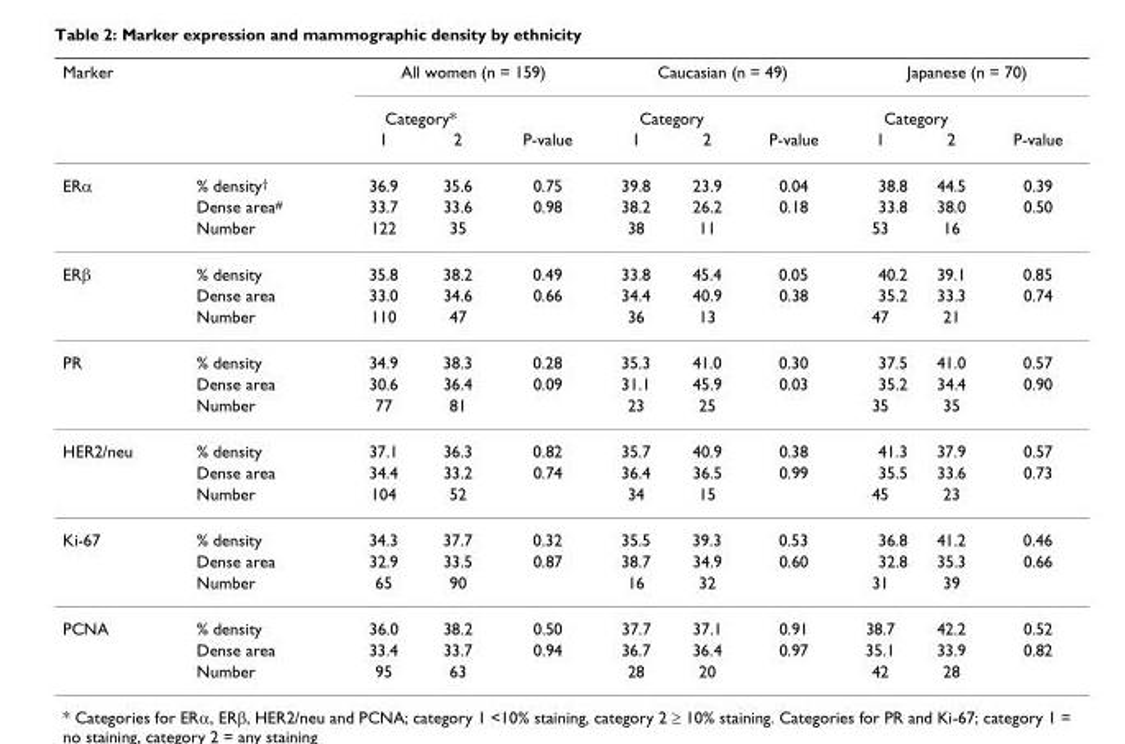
<table><thead><tr><td rowspan="3">Marker</td><td rowspan="3"></td><td colspan="3">All women (n = 159)</td><td colspan="3">Caucasian (n = 49)</td><td colspan="3">Japanese (n = 70)</td></tr><tr><td colspan="2">Category*</td><td rowspan="2">P-value</td><td colspan="2">Category</td><td rowspan="2">P-value</td><td colspan="2">Category</td><td rowspan="2">P-value</td></tr><tr><td>1</td><td>2</td><td>1</td><td>2</td><td>1</td><td>2</td></tr></thead><tbody><tr><td rowspan="3">ERα</td><td>% density<sup>†</sup></td><td>36.9</td><td>35.6</td><td>0.75</td><td>39.8</td><td>23.9</td><td>0.04</td><td>38.8</td><td>44.5</td><td>0.39</td></tr><tr><td>Dense area<sup>#</sup></td><td>33.7</td><td>33.6</td><td>0.98</td><td>38.2</td><td>26.2</td><td>0.18</td><td>33.8</td><td>38.0</td><td>0.50</td></tr><tr><td>Number</td><td>122</td><td>35</td><td></td><td>38</td><td>11</td><td></td><td>53</td><td>16</td><td></td></tr><tr><td rowspan="3">ERβ</td><td>% density</td><td>35.8</td><td>38.2</td><td>0.49</td><td>33.8</td><td>45.4</td><td>0.05</td><td>40.2</td><td>39.1</td><td>0.85</td></tr><tr><td>Dense area</td><td>33.0</td><td>34.6</td><td>0.66</td><td>34.4</td><td>40.9</td><td>0.38</td><td>35.2</td><td>33.3</td><td>0.74</td></tr><tr><td>Number</td><td>110</td><td>47</td><td></td><td>36</td><td>13</td><td></td><td>47</td><td>21</td><td></td></tr><tr><td rowspan="3">PR</td><td>% density</td><td>34.9</td><td>38.3</td><td>0.28</td><td>35.3</td><td>41.0</td><td>0.30</td><td>37.5</td><td>41.0</td><td>0.57</td></tr><tr><td>Dense area</td><td>30.6</td><td>36.4</td><td>0.09</td><td>31.1</td><td>45.9</td><td>0.03</td><td>35.2</td><td>34.4</td><td>0.90</td></tr><tr><td>Number</td><td>77</td><td>81</td><td></td><td>23</td><td>25</td><td></td><td>35</td><td>35</td><td></td></tr><tr><td rowspan="3">HER2/neu</td><td>% density</td><td>37.1</td><td>36.3</td><td>0.82</td><td>35.7</td><td>40.9</td><td>0.38</td><td>41.3</td><td>37.9</td><td>0.57</td></tr><tr><td>Dense area</td><td>34.4</td><td>33.2</td><td>0.74</td><td>36.4</td><td>36.5</td><td>0.99</td><td>35.5</td><td>33.6</td><td>0.73</td></tr><tr><td>Number</td><td>104</td><td>52</td><td></td><td>34</td><td>15</td><td></td><td>45</td><td>23</td><td></td></tr><tr><td rowspan="3">Ki-67</td><td>% density</td><td>34.3</td><td>37.7</td><td>0.32</td><td>35.5</td><td>39.3</td><td>0.53</td><td>36.8</td><td>41.2</td><td>0.46</td></tr><tr><td>Dense area</td><td>32.9</td><td>33.5</td><td>0.87</td><td>38.7</td><td>34.9</td><td>0.60</td><td>32.8</td><td>35.3</td><td>0.66</td></tr><tr><td>Number</td><td>65</td><td>90</td><td></td><td>16</td><td>32</td><td></td><td>31</td><td>39</td><td></td></tr><tr><td rowspan="3">PCNA</td><td>% density</td><td>36.0</td><td>38.2</td><td>0.50</td><td>37.7</td><td>37.1</td><td>0.91</td><td>38.7</td><td>42.2</td><td>0.52</td></tr><tr><td>Dense area</td><td>33.4</td><td>33.7</td><td>0.94</td><td>36.7</td><td>36.4</td><td>0.97</td><td>35.1</td><td>33.9</td><td>0.82</td></tr><tr><td>Number</td><td>95</td><td>63</td><td></td><td>28</td><td>20</td><td></td><td>42</td><td>28</td><td></td></tr></tbody></table>